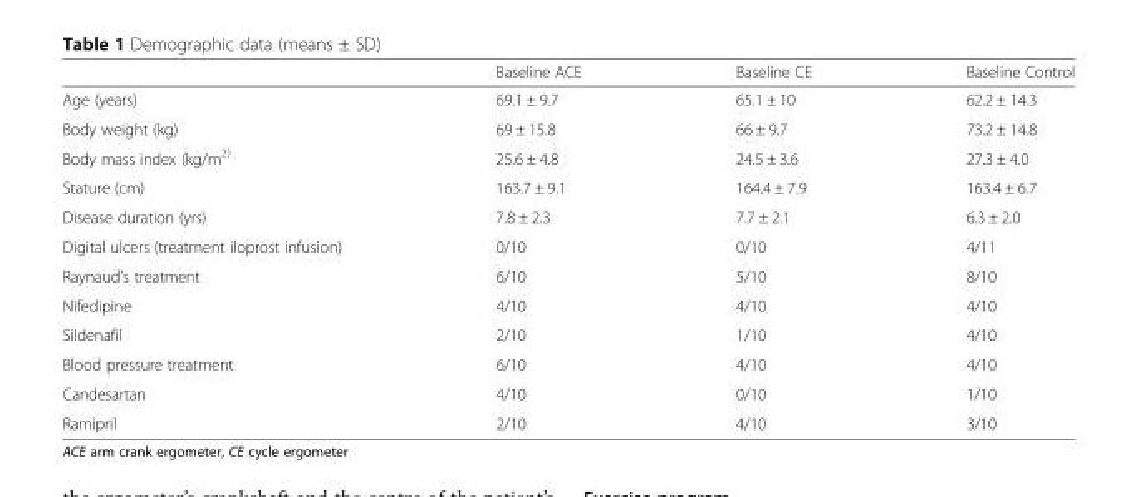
<table><thead><tr><td></td><td>Baseline ACE</td><td>Baseline CE</td><td>Baseline Control</td></tr></thead><tbody><tr><td>Age (years)</td><td>69.1 ± 9.7</td><td>65.1 ± 10</td><td>62.2 ± 14.3</td></tr><tr><td>Body weight (kg)</td><td>69 ± 15.8</td><td>66 ± 9.7</td><td>73.2 ± 14.8</td></tr><tr><td>Body mass index (kg/m<sup>2)</sup></td><td>25.6 ± 4.8</td><td>24.5 ± 3.6</td><td>27.3 ± 4.0</td></tr><tr><td>Stature (cm)</td><td>163.7 ± 9.1</td><td>164.4 ± 7.9</td><td>163.4 ± 6.7</td></tr><tr><td>Disease duration (yrs)</td><td>7.8 ± 2.3</td><td>7.7 ± 2.1</td><td>6.3 ± 2.0</td></tr><tr><td>Digital ulcers (treatment iloprost infusion)</td><td>0/10</td><td>0/10</td><td>4/11</td></tr><tr><td>Raynaud’s treatment</td><td>6/10</td><td>5/10</td><td>8/10</td></tr><tr><td>Nifedipine</td><td>4/10</td><td>4/10</td><td>4/10</td></tr><tr><td>Sildenafil</td><td>2/10</td><td>1/10</td><td>4/10</td></tr><tr><td>Blood pressure treatment</td><td>6/10</td><td>4/10</td><td>4/10</td></tr><tr><td>Candesartan</td><td>4/10</td><td>0/10</td><td>1/10</td></tr><tr><td>Ramipril</td><td>2/10</td><td>4/10</td><td>3/10</td></tr></tbody></table>